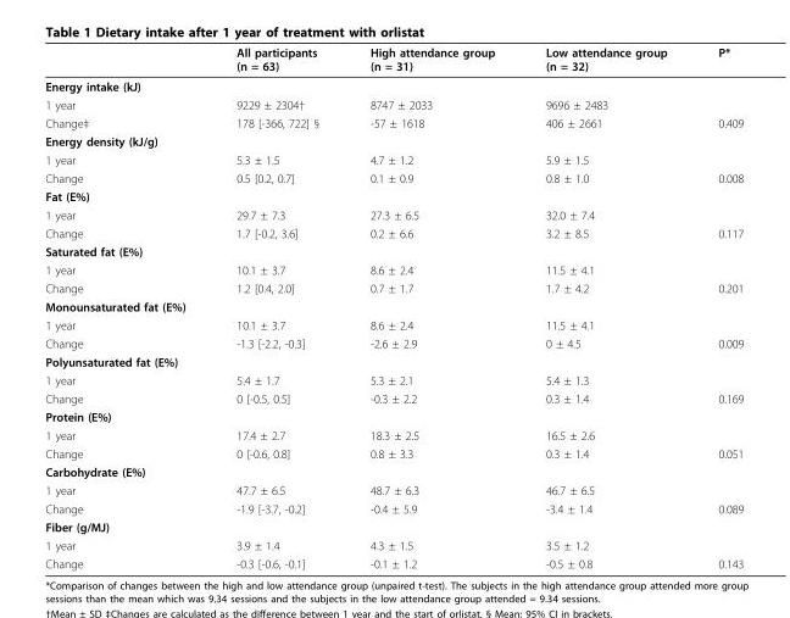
<table><thead><tr><td></td><td>All participants (n = 63)</td><td>High attendance group (n = 31)</td><td>Low attendance group (n = 32)</td><td>P*</td></tr></thead><tbody><tr><td colspan="5">Energy intake (kJ)</td></tr><tr><td>1 year</td><td>9229 ± 2304†</td><td>8747 ± 2033</td><td>9696 ± 2483</td><td></td></tr><tr><td>Change‡</td><td>178 [-366, 722] §</td><td>-57 ± 1618</td><td>406 ± 2661</td><td>0.409</td></tr><tr><td colspan="5">Energy density (kJ/g)</td></tr><tr><td>1 year</td><td>5.3 ± 1.5</td><td>4.7 ± 1.2</td><td>5.9 ± 1.5</td><td></td></tr><tr><td>Change</td><td>0.5 [0.2, 0.7]</td><td>0.1 ± 0.9</td><td>0.8 ± 1.0</td><td>0.008</td></tr><tr><td colspan="5">Fat (E%)</td></tr><tr><td>1 year</td><td>29.7 ± 7.3</td><td>27.3 ± 6.5</td><td>32.0 ± 7.4</td><td></td></tr><tr><td>Change</td><td>1.7 [-0.2, 3.6]</td><td>0.2 ± 6.6</td><td>3.2 ± 8.5</td><td>0.117</td></tr><tr><td colspan="5">Saturated fat (E%)</td></tr><tr><td>1 year</td><td>10.1 ± 3.7</td><td>8.6 ± 2.4</td><td>11.5 ± 4.1</td><td></td></tr><tr><td>Change</td><td>1.2 [0.4, 2.0]</td><td>0.7 ± 1.7</td><td>1.7 ± 4.2</td><td>0.201</td></tr><tr><td colspan="5">Monounsaturated fat (E%)</td></tr><tr><td>1 year</td><td>10.1 ± 3.7</td><td>8.6 ± 2.4</td><td>11.5 ± 4.1</td><td></td></tr><tr><td>Change</td><td>-1.3 [-2.2, -0.3]</td><td>-2.6 ± 2.9</td><td>0 ± 4.5</td><td>0.009</td></tr><tr><td colspan="5">Polyunsaturated fat (E%)</td></tr><tr><td>1 year</td><td>5.4 ± 1.7</td><td>5.3 ± 2.1</td><td>5.4 ± 1.3</td><td></td></tr><tr><td>Change</td><td>0 [-0.5, 0.5]</td><td>-0.3 ± 2.2</td><td>0.3 ± 1.4</td><td>0.169</td></tr><tr><td colspan="5">Protein (E%)</td></tr><tr><td>1 year</td><td>17.4 ± 2.7</td><td>18.3 ± 2.5</td><td>16.5 ± 2.6</td><td></td></tr><tr><td>Change</td><td>0 [-0.6, 0.8]</td><td>0.8 ± 3.3</td><td>0.3 ± 1.4</td><td>0.051</td></tr><tr><td colspan="5">Carbohydrate (E%)</td></tr><tr><td>1 year</td><td>47.7 ± 6.5</td><td>48.7 ± 6.3</td><td>46.7 ± 6.5</td><td></td></tr><tr><td>Change</td><td>-1.9 [-3.7, -0.2]</td><td>-0.4 ± 5.9</td><td>-3.4 ± 1.4</td><td>0.089</td></tr><tr><td colspan="5">Fiber (g/MJ)</td></tr><tr><td>1 year</td><td>3.9 ± 1.4</td><td>4.3 ± 1.5</td><td>3.5 ± 1.2</td><td></td></tr><tr><td>Change</td><td>-0.3 [-0.6, -0.1]</td><td>-0.1 ± 1.2</td><td>-0.5 ± 0.8</td><td>0.143</td></tr></tbody></table>